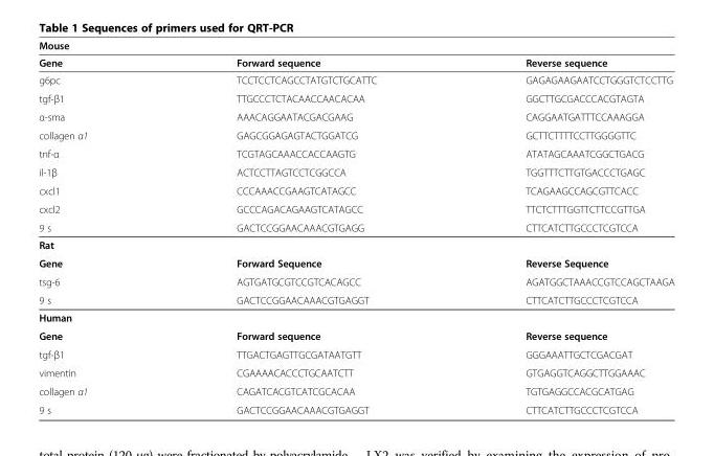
<table><thead><tr><td colspan="3">Mouse</td></tr><tr><td>Gene</td><td>Forward sequence</td><td>Reverse sequence</td></tr></thead><tbody><tr><td>g6pc</td><td>TCCTCCTCAGCCTATGTCTGCATTC</td><td>GAGAGAAGAATCCTGGGTCTCCTTG</td></tr><tr><td>tgf-β1</td><td>TTGCCCTCTACAACCAACACAA</td><td>GGCTTGCGACCCACGTAGTA</td></tr><tr><td>α-sma</td><td>AAACAGGAATACGACGAAG</td><td>CAGGAATGATTTCCAAAGGA</td></tr><tr><td>collagen α1</td><td>GAGCGGAGAGTACTGGATCG</td><td>GCTTCTTTTCCTTGGGGTTC</td></tr><tr><td>tnf-α</td><td>TCGTAGCAAACCACCAAGTG</td><td>ATATAGCAAATCGGCTGACG</td></tr><tr><td>il-1β</td><td>ACTCCTTAGTCCTCGGCCA</td><td>TGGTTTCTTGTGACCCTGAGC</td></tr><tr><td>cxcl1</td><td>CCCAAACCGAAGTCATAGCC</td><td>TCAGAAGCCAGCGTTCACC</td></tr><tr><td>cxcl2</td><td>GCCCAGACAGAAGTCATAGCC</td><td>TTCTCTTTGGTTCTTCCGTTGA</td></tr><tr><td>9 s</td><td>GACTCCGGAACAAACGTGAGG</td><td>CTTCATCTTGCCCTCGTCCA</td></tr><tr><td colspan="3">Rat</td></tr><tr><td>Gene</td><td>Forward Sequence</td><td>Reverse Sequence</td></tr><tr><td>tsg-6</td><td>AGTGATGCGTCCGTCACAGCC</td><td>AGATGGCTAAACCGTCCAGCTAAGA</td></tr><tr><td>9 s</td><td>GACTCCGGAACAAACGTGAGGT</td><td>CTTCATCTTGCCCTCGTCCA</td></tr><tr><td colspan="3">Human</td></tr><tr><td>Gene</td><td>Forward sequence</td><td>Reverse sequence</td></tr><tr><td>tgf-β1</td><td>TTGACTGAGTTGCGATAATGTT</td><td>GGGAAATTGCTCGACGAT</td></tr><tr><td>vimentin</td><td>CGAAAACACCCTGCAATCTT</td><td>GTGAGGTCAGGCTTGGAAAC</td></tr><tr><td>collagen α1</td><td>CAGATCACGTCATCGCACAA</td><td>TGTGAGGCCACGCATGAG</td></tr><tr><td>9 s</td><td>GACTCCGGAACAAACGTGAGGT</td><td>CTTCATCTTGCCCTCGTCCA</td></tr></tbody></table>